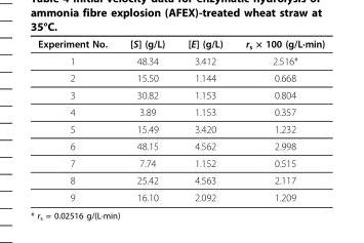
<table><thead><tr><td>Experiment No.</td><td>[S] (g/L)</td><td>[E] (g/L)</td><td>r<sub>s</sub> × 100 (g/L·min)</td></tr></thead><tbody><tr><td>1</td><td>48.34</td><td>3.412</td><td>2.516*</td></tr><tr><td>2</td><td>15.50</td><td>1.144</td><td>0.668</td></tr><tr><td>3</td><td>30.82</td><td>1.153</td><td>0.804</td></tr><tr><td>4</td><td>3.89</td><td>1.153</td><td>0.357</td></tr><tr><td>5</td><td>15.49</td><td>3.420</td><td>1.232</td></tr><tr><td>6</td><td>48.15</td><td>4.562</td><td>2.998</td></tr><tr><td>7</td><td>7.74</td><td>1.152</td><td>0.515</td></tr><tr><td>8</td><td>25.42</td><td>4.563</td><td>2.117</td></tr><tr><td>9</td><td>16.10</td><td>2.092</td><td>1.209</td></tr></tbody></table>